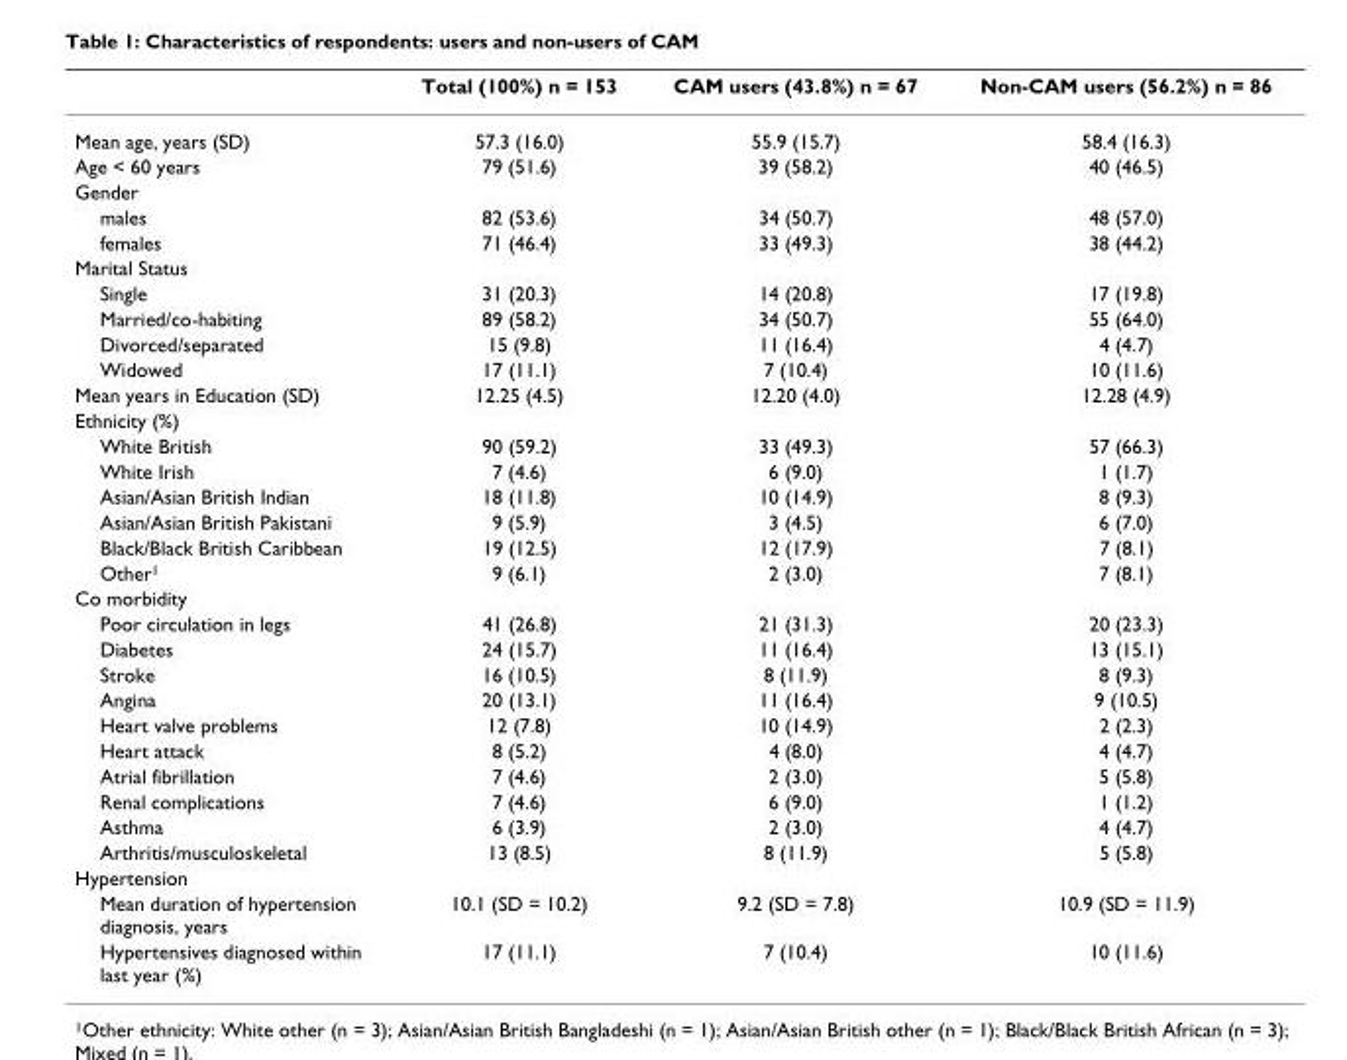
<table><thead><tr><td></td><td>Total (100%) n = 153</td><td>CAM users (43.8%) n = 67</td><td>Non-CAM users (56.2%) n = 86</td></tr></thead><tbody><tr><td>Mean age, years (SD)</td><td>57.3 (16.0)</td><td>55.9 (15.7)</td><td>58.4 (16.3)</td></tr><tr><td>Age &lt; 60 years</td><td>79 (51.6)</td><td>39 (58.2)</td><td>40 (46.5)</td></tr><tr><td colspan="4">Gender</td></tr><tr><td>males</td><td>82 (53.6)</td><td>34 (50.7)</td><td>48 (57.0)</td></tr><tr><td>females</td><td>71 (46.4)</td><td>33 (49.3)</td><td>38 (44.2)</td></tr><tr><td colspan="4">Marital Status</td></tr><tr><td>Single</td><td>31 (20.3)</td><td>14 (20.8)</td><td>17 (19.8)</td></tr><tr><td>Married/co-habiting</td><td>89 (58.2)</td><td>34 (50.7)</td><td>55 (64.0)</td></tr><tr><td>Divorced/separated</td><td>15 (9.8)</td><td>11 (16.4)</td><td>4 (4.7)</td></tr><tr><td>Widowed</td><td>17 (11.1)</td><td>7 (10.4)</td><td>10 (11.6)</td></tr><tr><td>Mean years in Education (SD)</td><td>12.25 (4.5)</td><td>12.20 (4.0)</td><td>12.28 (4.9)</td></tr><tr><td colspan="4">Ethnicity (%)</td></tr><tr><td>White British</td><td>90 (59.2)</td><td>33 (49.3)</td><td>57 (66.3)</td></tr><tr><td>White Irish</td><td>7 (4.6)</td><td>6 (9.0)</td><td>1 (1.7)</td></tr><tr><td>Asian/Asian British Indian</td><td>18 (11.8)</td><td>10 (14.9)</td><td>8 (9.3)</td></tr><tr><td>Asian/Asian British Pakistani</td><td>9 (5.9)</td><td>3 (4.5)</td><td>6 (7.0)</td></tr><tr><td>Black/Black British Caribbean</td><td>19 (12.5)</td><td>12 (17.9)</td><td>7 (8.1)</td></tr><tr><td>Other<sup>1</sup></td><td>9 (6.1)</td><td>2 (3.0)</td><td>7 (8.1)</td></tr><tr><td colspan="4">Co morbidity</td></tr><tr><td>Poor circulation in legs</td><td>41 (26.8)</td><td>21 (31.3)</td><td>20 (23.3)</td></tr><tr><td>Diabetes</td><td>24 (15.7)</td><td>11 (16.4)</td><td>13 (15.1)</td></tr><tr><td>Stroke</td><td>16 (10.5)</td><td>8 (11.9)</td><td>8 (9.3)</td></tr><tr><td>Angina</td><td>20 (13.1)</td><td>11 (16.4)</td><td>9 (10.5)</td></tr><tr><td>Heart valve problems</td><td>12 (7.8)</td><td>10 (14.9)</td><td>2 (2.3)</td></tr><tr><td>Heart attack</td><td>8 (5.2)</td><td>4 (8.0)</td><td>4 (4.7)</td></tr><tr><td>Atrial fibrillation</td><td>7 (4.6)</td><td>2 (3.0)</td><td>5 (5.8)</td></tr><tr><td>Renal complications</td><td>7 (4.6)</td><td>6 (9.0)</td><td>1 (1.2)</td></tr><tr><td>Asthma</td><td>6 (3.9)</td><td>2 (3.0)</td><td>4 (4.7)</td></tr><tr><td>Arthritis/musculoskeletal</td><td>13 (8.5)</td><td>8 (11.9)</td><td>5 (5.8)</td></tr><tr><td colspan="4">Hypertension</td></tr><tr><td>Mean duration of hypertension diagnosis, years</td><td>10.1 (SD = 10.2)</td><td>9.2 (SD = 7.8)</td><td>10.9 (SD = 11.9)</td></tr><tr><td>Hypertensives diagnosed within last year (%)</td><td>17 (11.1)</td><td>7 (10.4)</td><td>10 (11.6)</td></tr></tbody></table>